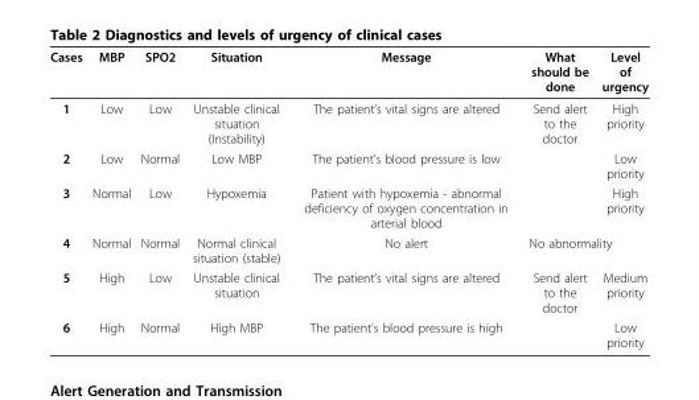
<table><thead><tr><td>Cases</td><td>MBP</td><td>SPO2</td><td>Situation</td><td>Message</td><td>What should be done</td><td>Level of urgency</td></tr></thead><tbody><tr><td>1</td><td>Low</td><td>Low</td><td>Unstable clinical situation (Instability)</td><td>The patient’s vital signs are altered</td><td>Send alert to the doctor</td><td>High priority</td></tr><tr><td>2</td><td>Low</td><td>Normal</td><td>Low MBP</td><td>The patient’s blood pressure is low</td><td></td><td>Low priority</td></tr><tr><td>3</td><td>Normal</td><td>Low</td><td>Hypoxemia</td><td>Patient with hypoxemia - abnormal deficiency of oxygen concentration in arterial blood</td><td></td><td>High priority</td></tr><tr><td>4</td><td>Normal</td><td>Normal</td><td>Normal clinical situation (stable)</td><td>No alert</td><td colspan="2">No abnormality</td></tr><tr><td>5</td><td>High</td><td>Low</td><td>Unstable clinical situation</td><td>The patient’s vital signs are altered</td><td>Send alert to the doctor</td><td>Medium priority</td></tr><tr><td>6</td><td>High</td><td>Normal</td><td>High MBP</td><td>The patient’s blood pressure is high</td><td></td><td>Low priority</td></tr></tbody></table>